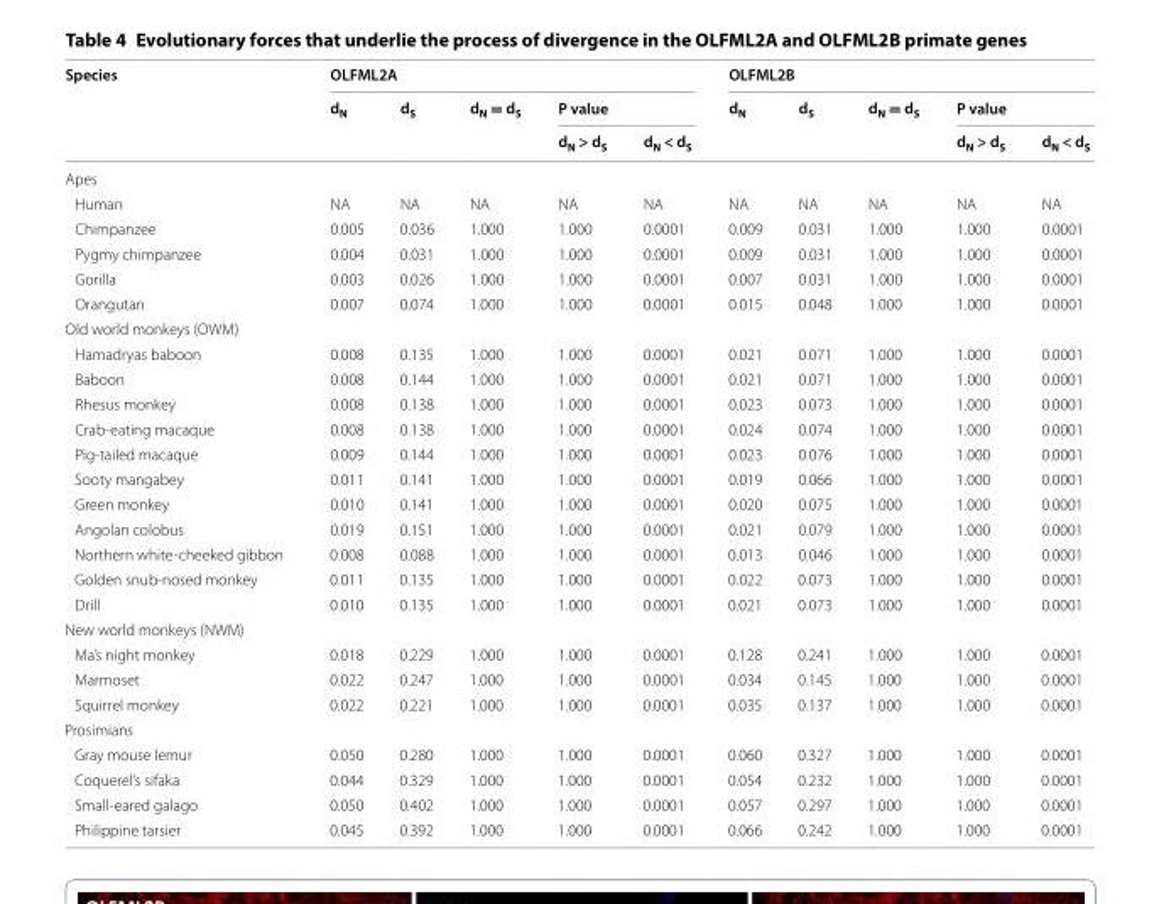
<table><thead><tr><td rowspan="3">Species</td><td colspan="5">OLFML2A</td><td colspan="5">OLFML2B</td></tr><tr><td rowspan="2">d<sub>N</sub></td><td rowspan="2">d<sub>S</sub></td><td rowspan="2">d<sub>N</sub> = d<sub>S</sub></td><td colspan="2">P value</td><td rowspan="2">d<sub>N</sub></td><td rowspan="2">d<sub>S</sub></td><td rowspan="2">d<sub>N</sub> = d<sub>S</sub></td><td colspan="2">P value</td></tr><tr><td>d<sub>N</sub> &gt; d<sub>S</sub></td><td>d<sub>N</sub> &lt; d<sub>S</sub></td><td>d<sub>N</sub> &gt; d<sub>S</sub></td><td>d<sub>N</sub> &lt; d<sub>S</sub></td></tr></thead><tbody><tr><td colspan="11">Apes</td></tr><tr><td>Human</td><td>NA</td><td>NA</td><td>NA</td><td>NA</td><td>NA</td><td>NA</td><td>NA</td><td>NA</td><td>NA</td><td>NA</td></tr><tr><td>Chimpanzee</td><td>0.005</td><td>0.036</td><td>1.000</td><td>1.000</td><td>0.0001</td><td>0.009</td><td>0.031</td><td>1.000</td><td>1.000</td><td>0.0001</td></tr><tr><td>Pygmy chimpanzee</td><td>0.004</td><td>0.031</td><td>1.000</td><td>1.000</td><td>0.0001</td><td>0.009</td><td>0.031</td><td>1.000</td><td>1.000</td><td>0.0001</td></tr><tr><td>Gorilla</td><td>0.003</td><td>0.026</td><td>1.000</td><td>1.000</td><td>0.0001</td><td>0.007</td><td>0.031</td><td>1.000</td><td>1.000</td><td>0.0001</td></tr><tr><td>Orangutan</td><td>0.007</td><td>0.074</td><td>1.000</td><td>1.000</td><td>0.0001</td><td>0.015</td><td>0.048</td><td>1.000</td><td>1.000</td><td>0.0001</td></tr><tr><td colspan="11">Old world monkeys (OWM)</td></tr><tr><td>Hamadryas baboon</td><td>0.008</td><td>0.135</td><td>1.000</td><td>1.000</td><td>0.0001</td><td>0.021</td><td>0.071</td><td>1.000</td><td>1.000</td><td>0.0001</td></tr><tr><td>Baboon</td><td>0.008</td><td>0.144</td><td>1.000</td><td>1.000</td><td>0.0001</td><td>0.021</td><td>0.071</td><td>1.000</td><td>1.000</td><td>0.0001</td></tr><tr><td>Rhesus monkey</td><td>0.008</td><td>0.138</td><td>1.000</td><td>1.000</td><td>0.0001</td><td>0.023</td><td>0.073</td><td>1.000</td><td>1.000</td><td>0.0001</td></tr><tr><td>Crab‑eating macaque</td><td>0.008</td><td>0.138</td><td>1.000</td><td>1.000</td><td>0.0001</td><td>0.024</td><td>0.074</td><td>1.000</td><td>1.000</td><td>0.0001</td></tr><tr><td>Pig‑tailed macaque</td><td>0.009</td><td>0.144</td><td>1.000</td><td>1.000</td><td>0.0001</td><td>0.023</td><td>0.076</td><td>1.000</td><td>1.000</td><td>0.0001</td></tr><tr><td>Sooty mangabey</td><td>0.011</td><td>0.141</td><td>1.000</td><td>1.000</td><td>0.0001</td><td>0.019</td><td>0.066</td><td>1.000</td><td>1.000</td><td>0.0001</td></tr><tr><td>Green monkey</td><td>0.010</td><td>0.141</td><td>1.000</td><td>1.000</td><td>0.0001</td><td>0.020</td><td>0.075</td><td>1.000</td><td>1.000</td><td>0.0001</td></tr><tr><td>Angolan colobus</td><td>0.019</td><td>0.151</td><td>1.000</td><td>1.000</td><td>0.0001</td><td>0.021</td><td>0.079</td><td>1.000</td><td>1.000</td><td>0.0001</td></tr><tr><td>Northern white‑cheeked gibbon</td><td>0.008</td><td>0.088</td><td>1.000</td><td>1.000</td><td>0.0001</td><td>0.013</td><td>0.046</td><td>1.000</td><td>1.000</td><td>0.0001</td></tr><tr><td>Golden snub‑nosed monkey</td><td>0.011</td><td>0.135</td><td>1.000</td><td>1.000</td><td>0.0001</td><td>0.022</td><td>0.073</td><td>1.000</td><td>1.000</td><td>0.0001</td></tr><tr><td>Drill</td><td>0.010</td><td>0.135</td><td>1.000</td><td>1.000</td><td>0.0001</td><td>0.021</td><td>0.073</td><td>1.000</td><td>1.000</td><td>0.0001</td></tr><tr><td colspan="11">New world monkeys (NWM)</td></tr><tr><td>Ma’s night monkey</td><td>0.018</td><td>0.229</td><td>1.000</td><td>1.000</td><td>0.0001</td><td>0.128</td><td>0.241</td><td>1.000</td><td>1.000</td><td>0.0001</td></tr><tr><td>Marmoset</td><td>0.022</td><td>0.247</td><td>1.000</td><td>1.000</td><td>0.0001</td><td>0.034</td><td>0.145</td><td>1.000</td><td>1.000</td><td>0.0001</td></tr><tr><td>Squirrel monkey</td><td>0.022</td><td>0.221</td><td>1.000</td><td>1.000</td><td>0.0001</td><td>0.035</td><td>0.137</td><td>1.000</td><td>1.000</td><td>0.0001</td></tr><tr><td colspan="11">Prosimians</td></tr><tr><td>Gray mouse lemur</td><td>0.050</td><td>0.280</td><td>1.000</td><td>1.000</td><td>0.0001</td><td>0.060</td><td>0.327</td><td>1.000</td><td>1.000</td><td>0.0001</td></tr><tr><td>Coquerel’s sifaka</td><td>0.044</td><td>0.329</td><td>1.000</td><td>1.000</td><td>0.0001</td><td>0.054</td><td>0.232</td><td>1.000</td><td>1.000</td><td>0.0001</td></tr><tr><td>Small‑eared galago</td><td>0.050</td><td>0.402</td><td>1.000</td><td>1.000</td><td>0.0001</td><td>0.057</td><td>0.297</td><td>1.000</td><td>1.000</td><td>0.0001</td></tr><tr><td>Philippine tarsier</td><td>0.045</td><td>0.392</td><td>1.000</td><td>1.000</td><td>0.0001</td><td>0.066</td><td>0.242</td><td>1.000</td><td>1.000</td><td>0.0001</td></tr></tbody></table>